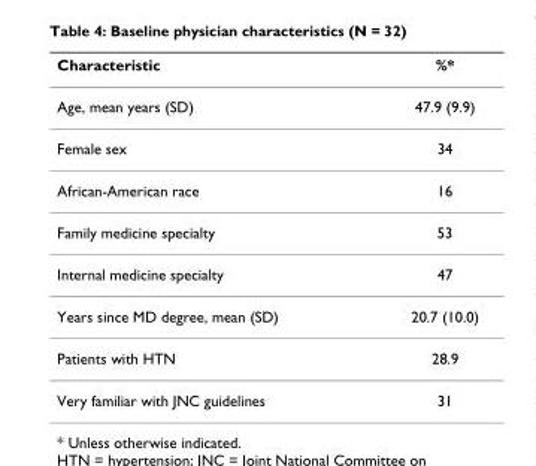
<table><thead><tr><td>Characteristic</td><td>%*</td></tr></thead><tbody><tr><td>Age, mean years (SD)</td><td>47.9 (9.9)</td></tr><tr><td>Female sex</td><td>34</td></tr><tr><td>African-American race</td><td>16</td></tr><tr><td>Family medicine specialty</td><td>53</td></tr><tr><td>Internal medicine specialty</td><td>47</td></tr><tr><td>Years since MD degree, mean (SD)</td><td>20.7 (10.0)</td></tr><tr><td>Patients with HTN</td><td>28.9</td></tr><tr><td>Very familiar with JNC guidelines</td><td>31</td></tr></tbody></table>